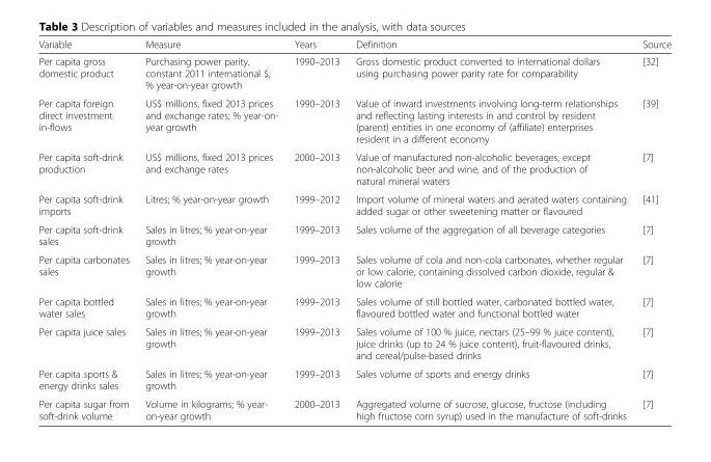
<table><thead><tr><td>Variable</td><td>Measure</td><td>Years</td><td>Definition</td><td>Source</td></tr></thead><tbody><tr><td>Per capita gross domestic product</td><td>Purchasing power parity, constant 2011 international $; % year-on-year growth</td><td>1990–2013</td><td>Gross domestic product converted to international dollars using purchasing power parity rate for comparability</td><td>[32]</td></tr><tr><td>Per capita foreign direct investment in-flows</td><td>US$ millions, fixed 2013 prices and exchange rates; % year-on- year growth</td><td>1990–2013</td><td>Value of inward investments involving long-term relationships and reflecting lasting interests in and control by resident (parent) entities in one economy of (affiliate) enterprises resident in a different economy</td><td>[39]</td></tr><tr><td>Per capita soft-drink production</td><td>US$ millions, fixed 2013 prices and exchange rates</td><td>2000–2013</td><td>Value of manufactured non-alcoholic beverages, except non-alcoholic beer and wine, and of the production of natural mineral waters</td><td>[7]</td></tr><tr><td>Per capita soft-drink imports</td><td>Litres; % year-on-year growth</td><td>1999–2012</td><td>Import volume of mineral waters and aerated waters containing added sugar or other sweetening matter or flavoured</td><td>[41]</td></tr><tr><td>Per capita soft-drink sales</td><td>Sales in litres; % year-on-year growth</td><td>1999–2013</td><td>Sales volume of the aggregation of all beverage categories</td><td>[7]</td></tr><tr><td>Per capita carbonates sales</td><td>Sales in litres; % year-on-year growth</td><td>1999–2013</td><td>Sales volume of cola and non-cola carbonates, whether regular or low calorie, containing dissolved carbon dioxide, regular &amp; low calorie</td><td>[7]</td></tr><tr><td>Per capita bottled water sales</td><td>Sales in litres; % year-on-year growth</td><td>1999–2013</td><td>Sales volume of still bottled water, carbonated bottled water, flavoured bottled water and functional bottled water</td><td>[7]</td></tr><tr><td>Per capita juice sales</td><td>Sales in litres; % year-on-year growth</td><td>1999–2013</td><td>Sales volume of 100 % juice, nectars (25–99 % juice content), juice drinks (up to 24 % juice content), fruit-flavoured drinks, and cereal/pulse-based drinks</td><td>[7]</td></tr><tr><td>Per capita sports &amp; energy drinks sales</td><td>Sales in litres; % year-on-year growth</td><td>1999–2013</td><td>Sales volume of sports and energy drinks</td><td>[7]</td></tr><tr><td>Per capita sugar from soft-drink volume</td><td>Volume in kilograms; % year- on-year growth</td><td>2000–2013</td><td>Aggregated volume of sucrose, glucose, fructose (including high fructose corn syrup) used in the manufacture of soft-drinks</td><td>[7]</td></tr></tbody></table>